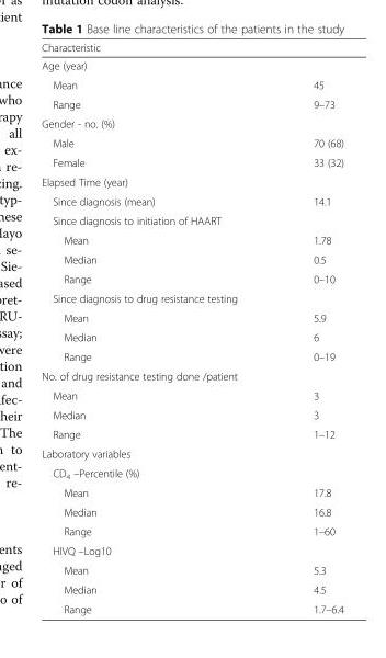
<table><thead><tr><td rowspan="2" colspan="2">Characteristic Age (year)</td></tr><tr></tr><tr><td>Mean</td><td>45</td></tr></thead><tbody><tr><td>Range</td><td>9–73</td></tr><tr><td colspan="2">Gender - no. (%)</td></tr><tr><td>Male</td><td>70 (68)</td></tr><tr><td>Female</td><td>33 (32)</td></tr><tr><td colspan="2">Elapsed Time (year)</td></tr><tr><td>Since diagnosis (mean)</td><td>14.1</td></tr><tr><td colspan="2">Since diagnosis to initiation of HAART</td></tr><tr><td>Mean</td><td>1.78</td></tr><tr><td>Median</td><td>0.5</td></tr><tr><td>Range</td><td>0–10</td></tr><tr><td colspan="2">Since diagnosis to drug resistance testing</td></tr><tr><td>Mean</td><td>5.9</td></tr><tr><td>Median</td><td>6</td></tr><tr><td>Range</td><td>0–19</td></tr><tr><td colspan="2">No. of drug resistance testing done /patient</td></tr><tr><td>Mean</td><td>3</td></tr><tr><td>Median</td><td>3</td></tr><tr><td>Range</td><td>1–12</td></tr><tr><td colspan="2">Laboratory variables</td></tr><tr><td colspan="2">CD<sub>4</sub> –Percentile (%)</td></tr><tr><td>Mean</td><td>17.8</td></tr><tr><td>Median</td><td>16.8</td></tr><tr><td>Range</td><td>1–60</td></tr><tr><td colspan="2">HIVQ –Log10</td></tr><tr><td>Mean</td><td>5.3</td></tr><tr><td>Median</td><td>4.5</td></tr><tr><td>Range</td><td>1.7–6.4</td></tr></tbody></table>